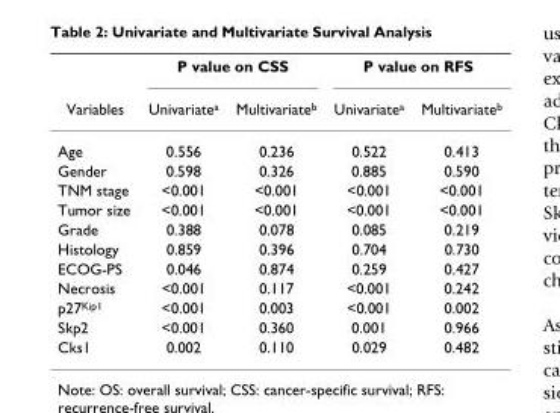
<table><thead><tr><td rowspan="2">Variables</td><td colspan="2">P value on CSS</td><td colspan="2">P value on RFS</td></tr><tr><td>Univariate<sup>a</sup></td><td>Multivariate<sup>b</sup></td><td>Univariate<sup>a</sup></td><td>Multivariate<sup>b</sup></td></tr></thead><tbody><tr><td>Age</td><td>0.556</td><td>0.236</td><td>0.522</td><td>0.413</td></tr><tr><td>Gender</td><td>0.598</td><td>0.326</td><td>0.885</td><td>0.590</td></tr><tr><td>TNM stage</td><td>&lt;0.001</td><td>&lt;0.001</td><td>&lt;0.001</td><td>&lt;0.001</td></tr><tr><td>Tumor size</td><td>&lt;0.001</td><td>&lt;0.001</td><td>&lt;0.001</td><td>&lt;0.001</td></tr><tr><td>Grade</td><td>0.388</td><td>0.078</td><td>0.085</td><td>0.219</td></tr><tr><td>Histology</td><td>0.859</td><td>0.396</td><td>0.704</td><td>0.730</td></tr><tr><td>ECOG-PS</td><td>0.046</td><td>0.874</td><td>0.259</td><td>0.427</td></tr><tr><td>Necrosis</td><td>&lt;0.001</td><td>0.117</td><td>&lt;0.001</td><td>0.242</td></tr><tr><td>p27<sup>Kip1</sup></td><td>&lt;0.001</td><td>0.003</td><td>&lt;0.001</td><td>0.002</td></tr><tr><td>Skp2</td><td>&lt;0.001</td><td>0.360</td><td>0.001</td><td>0.966</td></tr><tr><td>Cks1</td><td>0.002</td><td>0.110</td><td>0.029</td><td>0.482</td></tr></tbody></table>